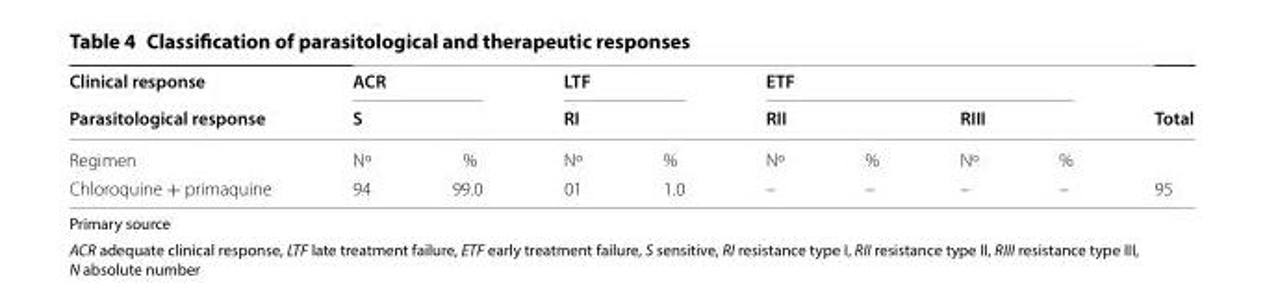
<table><thead><tr><td rowspan="3">Clinical response Parasitological response Regimen</td><td rowspan="2" colspan="2">ACR S</td><td rowspan="2" colspan="2">LTF RI</td><td colspan="4">ETF</td><td rowspan="3">Total</td></tr><tr><td colspan="2">RII</td><td colspan="2">RIII</td></tr><tr><td>Nº</td><td>%</td><td>Nº</td><td>%</td><td>Nº</td><td>%</td><td>Nº</td><td>%</td></tr></thead><tbody><tr><td>Chloroquine + primaquine</td><td>94</td><td>99.0</td><td>01</td><td>1.0</td><td>–</td><td>–</td><td>–</td><td>–</td><td>95</td></tr></tbody></table>